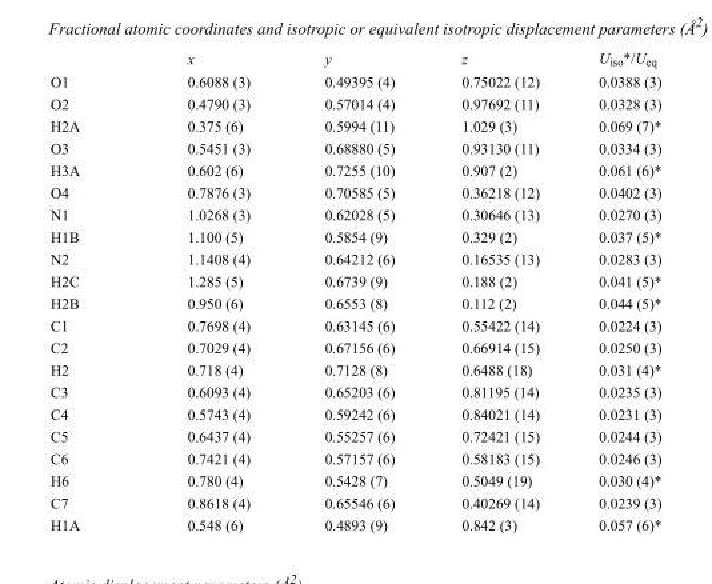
<table><thead><tr><td></td><td>x</td><td>y</td><td>z</td><td>U<sub>iso</sub>*/U<sub>eq</sub></td></tr></thead><tbody><tr><td>O1</td><td>0.6088 (3)</td><td>0.49395 (4)</td><td>0.75022 (12)</td><td>0.0388 (3)</td></tr><tr><td>O2</td><td>0.4790 (3)</td><td>0.57014 (4)</td><td>0.97692 (11)</td><td>0.0328 (3)</td></tr><tr><td>H2A</td><td>0.375 (6)</td><td>0.5994 (11)</td><td>1.029 (3)</td><td>0.069 (7)*</td></tr><tr><td>O3</td><td>0.5451 (3)</td><td>0.68880 (5)</td><td>0.93130 (11)</td><td>0.0334 (3)</td></tr><tr><td>H3A</td><td>0.602 (6)</td><td>0.7255 (10)</td><td>0.907 (2)</td><td>0.061 (6)*</td></tr><tr><td>O4</td><td>0.7876 (3)</td><td>0.70585 (5)</td><td>0.36218 (12)</td><td>0.0402 (3)</td></tr><tr><td>N1</td><td>1.0268 (3)</td><td>0.62028 (5)</td><td>0.30646 (13)</td><td>0.0270 (3)</td></tr><tr><td>H1B</td><td>1.100 (5)</td><td>0.5854 (9)</td><td>0.329 (2)</td><td>0.037 (5)*</td></tr><tr><td>N2</td><td>1.1408 (4)</td><td>0.64212 (6)</td><td>0.16535 (13)</td><td>0.0283 (3)</td></tr><tr><td>H2C</td><td>1.285 (5)</td><td>0.6739 (9)</td><td>0.188 (2)</td><td>0.041 (5)*</td></tr><tr><td>H2B</td><td>0.950 (6)</td><td>0.6553 (8)</td><td>0.112 (2)</td><td>0.044 (5)*</td></tr><tr><td>C1</td><td>0.7698 (4)</td><td>0.63145 (6)</td><td>0.55422 (14)</td><td>0.0224 (3)</td></tr><tr><td>C2</td><td>0.7029 (4)</td><td>0.67156 (6)</td><td>0.66914 (15)</td><td>0.0250 (3)</td></tr><tr><td>H2</td><td>0.718 (4)</td><td>0.7128 (8)</td><td>0.6488 (18)</td><td>0.031 (4)*</td></tr><tr><td>C3</td><td>0.6093 (4)</td><td>0.65203 (6)</td><td>0.81195 (14)</td><td>0.0235 (3)</td></tr><tr><td>C4</td><td>0.5743 (4)</td><td>0.59242 (6)</td><td>0.84021 (14)</td><td>0.0231 (3)</td></tr><tr><td>C5</td><td>0.6437 (4)</td><td>0.55257 (6)</td><td>0.72421 (15)</td><td>0.0244 (3)</td></tr><tr><td>C6</td><td>0.7421 (4)</td><td>0.57157 (6)</td><td>0.58183 (15)</td><td>0.0246 (3)</td></tr><tr><td>H6</td><td>0.780 (4)</td><td>0.5428 (7)</td><td>0.5049 (19)</td><td>0.030 (4)*</td></tr><tr><td>C7</td><td>0.8618 (4)</td><td>0.65546 (6)</td><td>0.40269 (14)</td><td>0.0239 (3)</td></tr><tr><td>H1A</td><td>0.548 (6)</td><td>0.4893 (9)</td><td>0.842 (3)</td><td>0.057 (6)*</td></tr></tbody></table>